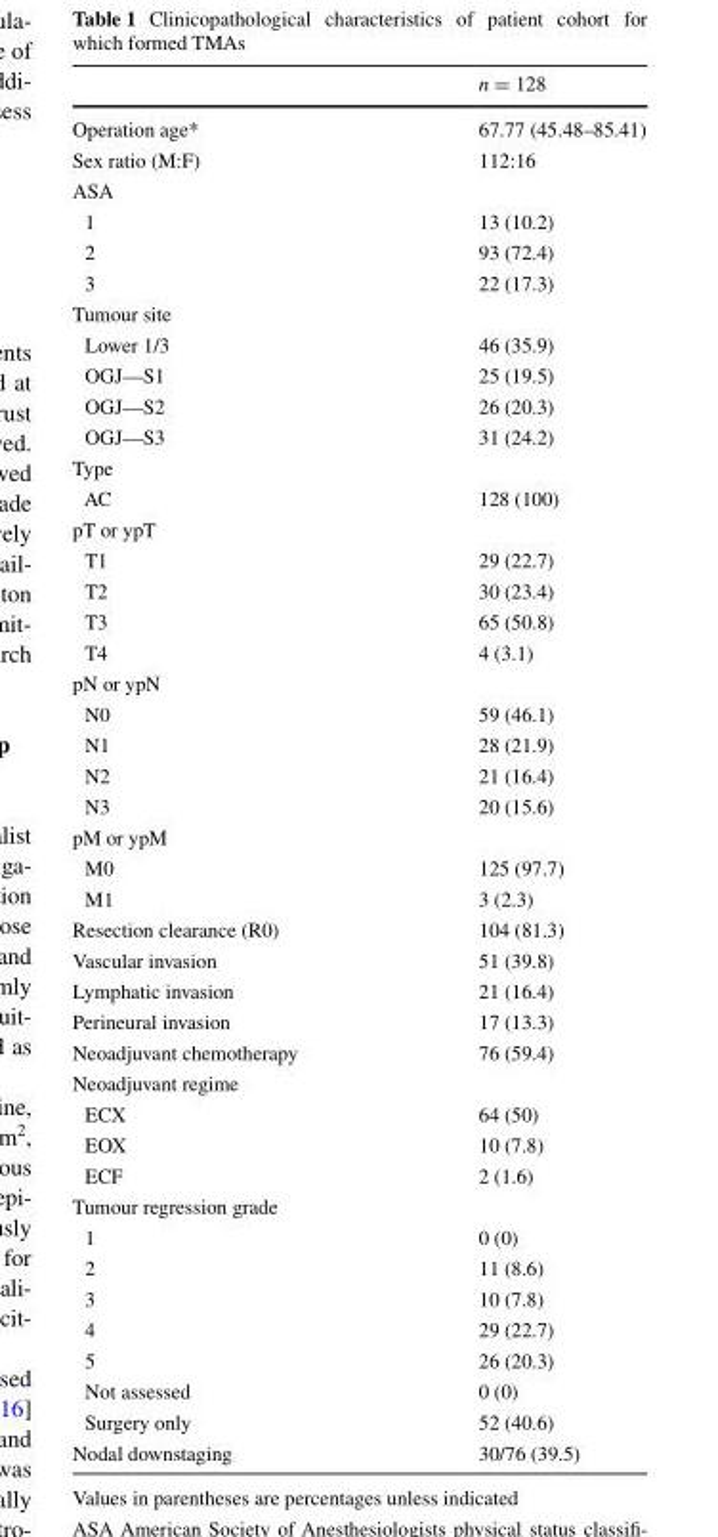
<table><thead><tr><td></td><td>n = 128</td></tr></thead><tbody><tr><td>Operation age*</td><td>67.77 (45.48–85.41)</td></tr><tr><td>Sex ratio (M:F)</td><td>112:16</td></tr><tr><td colspan="2">ASA</td></tr><tr><td>1</td><td>13 (10.2)</td></tr><tr><td>2</td><td>93 (72.4)</td></tr><tr><td>3</td><td>22 (17.3)</td></tr><tr><td colspan="2">Tumour site</td></tr><tr><td>Lower 1/3</td><td>46 (35.9)</td></tr><tr><td>OGJ—S1</td><td>25 (19.5)</td></tr><tr><td>OGJ—S2</td><td>26 (20.3)</td></tr><tr><td>OGJ—S3</td><td>31 (24.2)</td></tr><tr><td colspan="2">Type</td></tr><tr><td>AC</td><td>128 (100)</td></tr><tr><td colspan="2">pT or ypT</td></tr><tr><td>T1</td><td>29 (22.7)</td></tr><tr><td>T2</td><td>30 (23.4)</td></tr><tr><td>T3</td><td>65 (50.8)</td></tr><tr><td>T4</td><td>4 (3.1)</td></tr><tr><td colspan="2">pN or ypN</td></tr><tr><td>N0</td><td>59 (46.1)</td></tr><tr><td>N1</td><td>28 (21.9)</td></tr><tr><td>N2</td><td>21 (16.4)</td></tr><tr><td>N3</td><td>20 (15.6)</td></tr><tr><td colspan="2">pM or ypM</td></tr><tr><td>M0</td><td>125 (97.7)</td></tr><tr><td>M1</td><td>3 (2.3)</td></tr><tr><td>Resection clearance (R0)</td><td>104 (81.3)</td></tr><tr><td>Vascular invasion</td><td>51 (39.8)</td></tr><tr><td>Lymphatic invasion</td><td>21 (16.4)</td></tr><tr><td>Perineural invasion</td><td>17 (13.3)</td></tr><tr><td>Neoadjuvant chemotherapy</td><td>76 (59.4)</td></tr><tr><td colspan="2">Neoadjuvant regime</td></tr><tr><td>ECX</td><td>64 (50)</td></tr><tr><td>EOX</td><td>10 (7.8)</td></tr><tr><td>ECF</td><td>2 (1.6)</td></tr><tr><td colspan="2">Tumour regression grade</td></tr><tr><td>1</td><td>0 (0)</td></tr><tr><td>2</td><td>11 (8.6)</td></tr><tr><td>3</td><td>10 (7.8)</td></tr><tr><td>4</td><td>29 (22.7)</td></tr><tr><td>5</td><td>26 (20.3)</td></tr><tr><td>Not assessed</td><td>0 (0)</td></tr><tr><td>Surgery only</td><td>52 (40.6)</td></tr><tr><td>Nodal downstaging</td><td>30/76 (39.5)</td></tr></tbody></table>